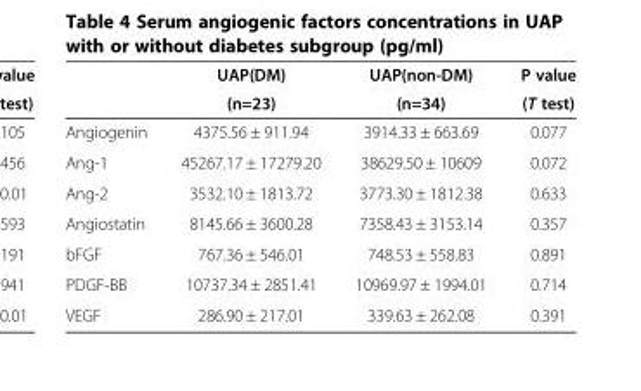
<table><thead><tr><td rowspan="2"></td><td rowspan="2">UAP(DM) (n=23)</td><td rowspan="2">UAP(non-DM) (n=34)</td><td rowspan="2">P value (T test)</td></tr><tr></tr></thead><tbody><tr><td>Angiogenin</td><td>4375.56 ± 911.94</td><td>3914.33 ± 663.69</td><td>0.077</td></tr><tr><td>Ang-1</td><td>45267.17 ± 17279.20</td><td>38629.50 ± 10609</td><td>0.072</td></tr><tr><td>Ang-2</td><td>3532.10 ± 1813.72</td><td>3773.30 ± 1812.38</td><td>0.633</td></tr><tr><td>Angiostatin</td><td>8145.66 ± 3600.28</td><td>7358.43 ± 3153.14</td><td>0.357</td></tr><tr><td>bFGF</td><td>767.36 ± 546.01</td><td>748.53 ± 558.83</td><td>0.891</td></tr><tr><td>PDGF-BB</td><td>10737.34 ± 2851.41</td><td>10969.97 ± 1994.01</td><td>0.714</td></tr><tr><td>VEGF</td><td>286.90 ± 217.01</td><td>339.63 ± 262.08</td><td>0.391</td></tr></tbody></table>